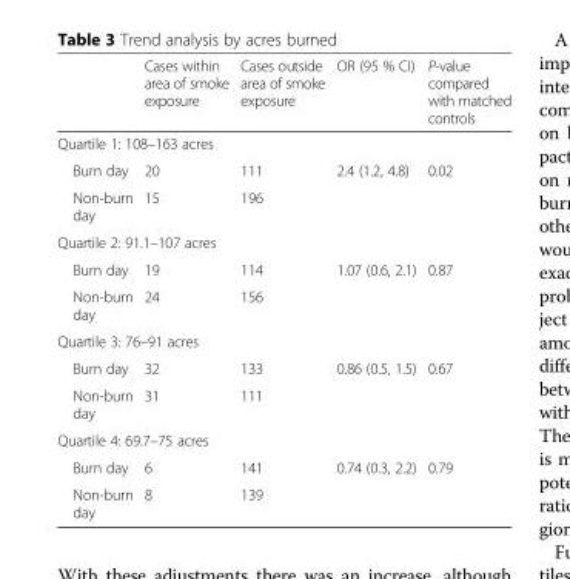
<table><thead><tr><td></td><td>Cases within area of smoke exposure</td><td>Cases outside area of smoke exposure</td><td>OR (95 % CI)</td><td>P-value compared with matched controls</td></tr></thead><tbody><tr><td colspan="5">Quartile 1: 108–163 acres</td></tr><tr><td>Burn day</td><td>20</td><td>111</td><td rowspan="2">2.4 (1.2, 4.8)</td><td rowspan="2">0.02</td></tr><tr><td>Non-burn day</td><td>15</td><td>196</td></tr><tr><td colspan="5">Quartile 2: 91.1–107 acres</td></tr><tr><td>Burn day</td><td>19</td><td>114</td><td rowspan="2">1.07 (0.6, 2.1)</td><td rowspan="2">0.87</td></tr><tr><td>Non-burn day</td><td>24</td><td>156</td></tr><tr><td colspan="5">Quartile 3: 76–91 acres</td></tr><tr><td>Burn day</td><td>32</td><td>133</td><td rowspan="2">0.86 (0.5, 1.5)</td><td rowspan="2">0.67</td></tr><tr><td>Non-burn day</td><td>31</td><td>111</td></tr><tr><td colspan="5">Quartile 4: 69.7–75 acres</td></tr><tr><td>Burn day</td><td>6</td><td>141</td><td rowspan="2">0.74 (0.3, 2.2)</td><td rowspan="2">0.79</td></tr><tr><td>Non-burn day</td><td>8</td><td>139</td></tr></tbody></table>